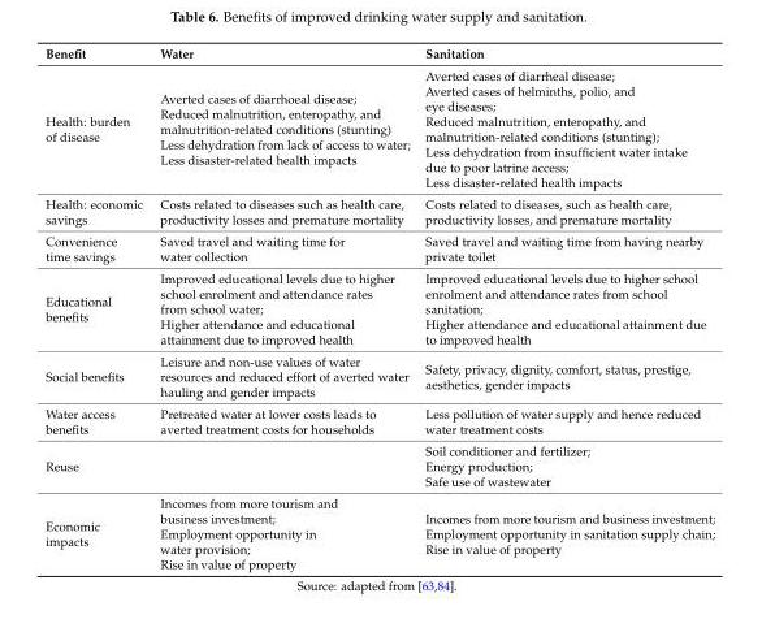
<table><thead><tr><td>Benefit</td><td>Water</td><td>Sanitation</td></tr></thead><tbody><tr><td>Health: burden of disease</td><td>Averted cases of diarrhoeal disease; Reduced malnutrition, enteropathy, and malnutrition-related conditions (stunting) Less dehydration from lack of access to water; Less disaster-related health impacts</td><td>Averted cases of diarrheal disease; Averted cases of helminths, polio, and eye diseases; Reduced malnutrition, enteropathy, and malnutrition-related conditions (stunting); Less dehydration from insufficient water intake due to poor latrine access; Less disaster-related health impacts</td></tr><tr><td>Health: economic savings</td><td>Costs related to diseases such as health care, productivity losses and premature mortality</td><td>Costs related to diseases, such as health care, productivity losses, and premature mortality</td></tr><tr><td>Convenience time savings</td><td>Saved travel and waiting time for water collection</td><td>Saved travel and waiting time from having nearby private toilet</td></tr><tr><td>Educational benefits</td><td>Improved educational levels due to higher school enrolment and attendance rates from school water; Higher attendance and educational attainment due to improved health</td><td>Improved educational levels due to higher school enrolment and attendance rates from school sanitation; Higher attendance and educational attainment due to improved health</td></tr><tr><td>Social benefits</td><td>Leisure and non-use values of water resources and reduced effort of averted water hauling and gender impacts</td><td>Safety, privacy, dignity, comfort, status, prestige, aesthetics, gender impacts</td></tr><tr><td>Water access benefits</td><td>Pretreated water at lower costs leads to averted treatment costs for households</td><td>Less pollution of water supply and hence reduced water treatment costs</td></tr><tr><td>Reuse</td><td></td><td>Soil conditioner and fertilizer; Energy production; Safe use of wastewater</td></tr><tr><td>Economic impacts</td><td>Incomes from more tourism and business investment; Employment opportunity in water provision; Rise in value of property</td><td>Incomes from more tourism and business investment; Employment opportunity in sanitation supply chain; Rise in value of property</td></tr></tbody></table>